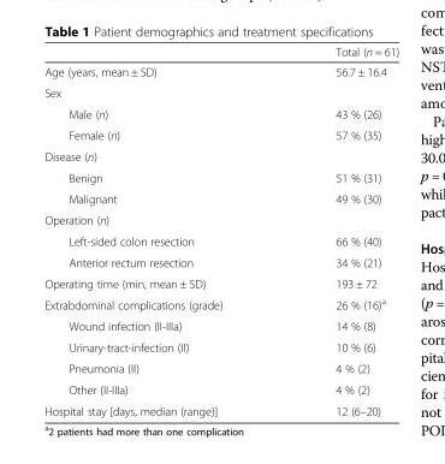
<table><thead><tr><td></td><td>Total (n = 61)</td></tr></thead><tbody><tr><td>Age (years, mean ± SD)</td><td>56.7 ± 16.4</td></tr><tr><td colspan="2">Sex</td></tr><tr><td>Male (n)</td><td>43 % (26)</td></tr><tr><td>Female (n)</td><td>57 % (35)</td></tr><tr><td colspan="2">Disease (n)</td></tr><tr><td>Benign</td><td>51 % (31)</td></tr><tr><td>Malignant</td><td>49 % (30)</td></tr><tr><td colspan="2">Operation (n)</td></tr><tr><td>Left-sided colon resection</td><td>66 % (40)</td></tr><tr><td>Anterior rectum resection</td><td>34 % (21)</td></tr><tr><td>Operating time (min, mean ± SD)</td><td>193 ± 72</td></tr><tr><td>Extrabdominal complications (grade)</td><td>26 % (16)<sup>a</sup></td></tr><tr><td>Wound infection (II-IIIa)</td><td>14 % (8)</td></tr><tr><td>Urinary-tract-infection (II)</td><td>10 % (6)</td></tr><tr><td>Pneumonia (II)</td><td>4 % (2)</td></tr><tr><td>Other (II-IIIa)</td><td>4 % (2)</td></tr><tr><td>Hospital stay [days, median (range)]</td><td>12 (6–20)</td></tr></tbody></table>